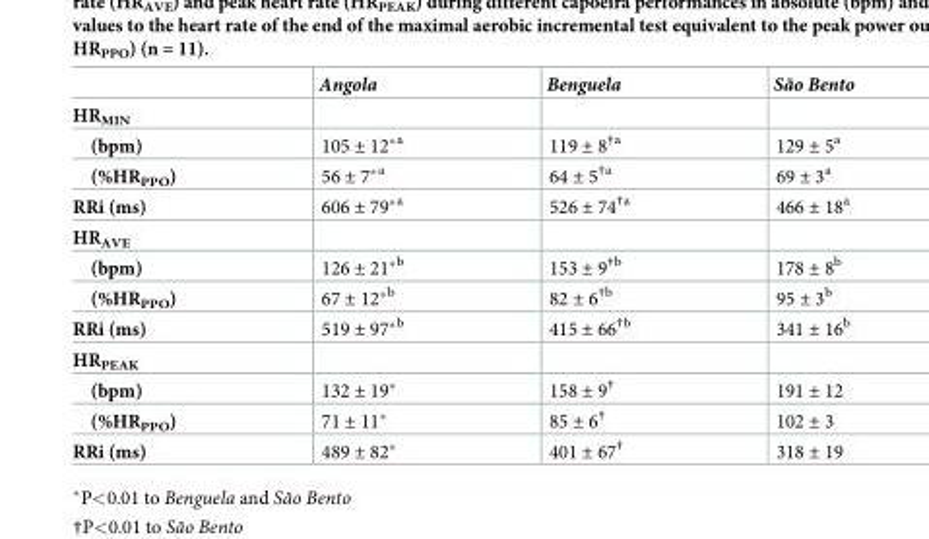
<table><thead><tr><td></td><td>Angola</td><td>Benguela</td><td>São Bento</td></tr></thead><tbody><tr><td colspan="4">HR<sub>MIN</sub></td></tr><tr><td>(bpm)</td><td>105 ± 12*<sup>a</sup></td><td>119 ± 8<sup>†a</sup></td><td>129 ± 5<sup>a</sup></td></tr><tr><td>(%HR<sub>PPO</sub>)</td><td>56 ± 7*<sup>a</sup></td><td>64 ± 5<sup>†a</sup></td><td>69 ± 3<sup>a</sup></td></tr><tr><td>RRi (ms)</td><td>606 ± 79*<sup>a</sup></td><td>526 ± 74<sup>†a</sup></td><td>466 ± 18<sup>a</sup></td></tr><tr><td colspan="4">HR<sub>AVE</sub></td></tr><tr><td>(bpm)</td><td>126 ± 21*<sup>b</sup></td><td>153 ± 9<sup>†b</sup></td><td>178 ± 8<sup>b</sup></td></tr><tr><td>(%HR<sub>PPO</sub>)</td><td>67 ± 12*<sup>b</sup></td><td>82 ± 6<sup>†b</sup></td><td>95 ± 3<sup>b</sup></td></tr><tr><td>RRi (ms)</td><td>519 ± 97*<sup>b</sup></td><td>415 ± 66<sup>†b</sup></td><td>341 ± 16<sup>b</sup></td></tr><tr><td colspan="4">HR<sub>PEAK</sub></td></tr><tr><td>(bpm)</td><td>132 ± 19*</td><td>158 ± 9<sup>†</sup></td><td>191 ± 12</td></tr><tr><td>(%HR<sub>PPO</sub>)</td><td>71 ± 11*</td><td>85 ± 6<sup>†</sup></td><td>102 ± 3</td></tr><tr><td>RRi (ms)</td><td>489 ± 82*</td><td>401 ± 67<sup>†</sup></td><td>318 ± 19</td></tr></tbody></table>